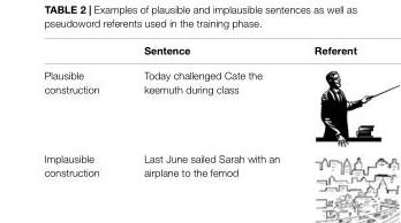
<table><thead><tr><td></td><td>Sentence</td><td>Referent</td></tr></thead><tbody><tr><td>Plausible construction</td><td>Today challenged Cate the keemuth during class</td><td rowspan="2"></td></tr><tr><td>Implausible construction</td><td>Last June sailed Sarah with an airplane to the femod</td></tr></tbody></table>